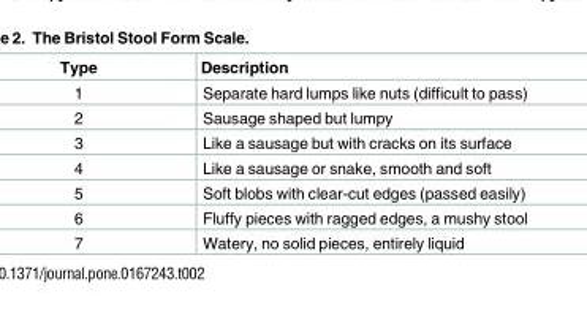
<table><thead><tr><td>Type</td><td>Description</td></tr></thead><tbody><tr><td>1</td><td>Separate hard lumps like nuts (difficult to pass)</td></tr><tr><td>2</td><td>Sausage shaped but lumpy</td></tr><tr><td>3</td><td>Like a sausage but with cracks on its surface</td></tr><tr><td>4</td><td>Like a sausage or snake, smooth and soft</td></tr><tr><td>5</td><td>Soft blobs with clear-cut edges (passed easily)</td></tr><tr><td>6</td><td>Fluffy pieces with ragged edges, a mushy stool</td></tr><tr><td>7</td><td>Watery, no solid pieces, entirely liquid</td></tr></tbody></table>